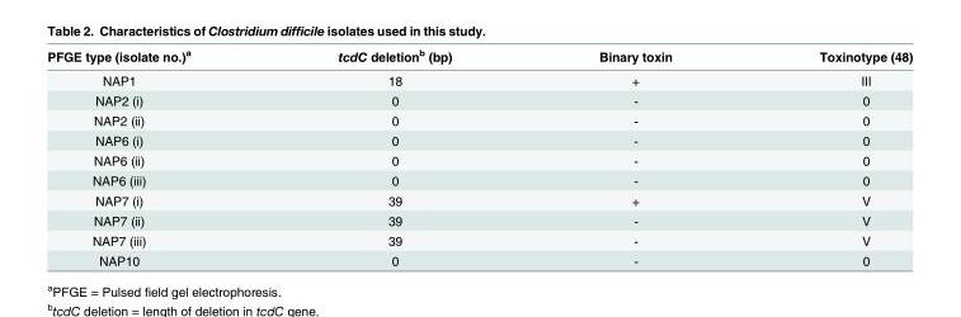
<table><thead><tr><td>PFGE type (isolate no.)<sup>a</sup></td><td>tcdC deletion<sup>b</sup> (bp)</td><td>Binary toxin</td><td>Toxinotype (48)</td></tr></thead><tbody><tr><td>NAP1</td><td>18</td><td>+</td><td>III</td></tr><tr><td>NAP2 (i)</td><td>0</td><td>-</td><td>0</td></tr><tr><td>NAP2 (ii)</td><td>0</td><td>-</td><td>0</td></tr><tr><td>NAP6 (i)</td><td>0</td><td>-</td><td>0</td></tr><tr><td>NAP6 (ii)</td><td>0</td><td>-</td><td>0</td></tr><tr><td>NAP6 (iii)</td><td>0</td><td>-</td><td>0</td></tr><tr><td>NAP7 (i)</td><td>39</td><td>+</td><td>V</td></tr><tr><td>NAP7 (ii)</td><td>39</td><td>-</td><td>V</td></tr><tr><td>NAP7 (iii)</td><td>39</td><td>-</td><td>V</td></tr><tr><td>NAP10</td><td>0</td><td>-</td><td>0</td></tr></tbody></table>